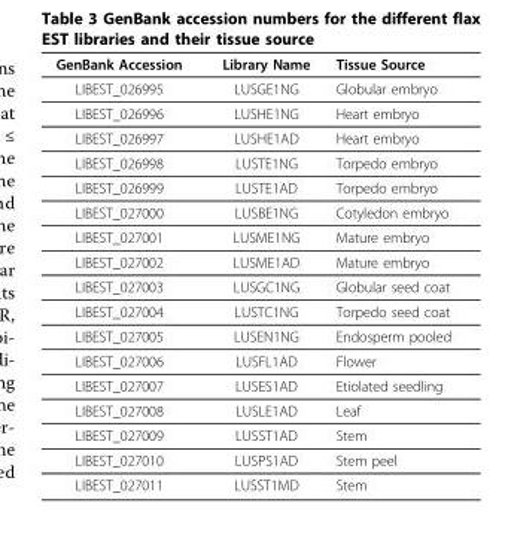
<table><thead><tr><td>GenBank Accession</td><td>Library Name</td><td>Tissue Source</td></tr></thead><tbody><tr><td>LIBEST_026995</td><td>LUSGE1NG</td><td>Globular embryo</td></tr><tr><td>LIBEST_026996</td><td>LUSHE1NG</td><td>Heart embryo</td></tr><tr><td>LIBEST_026997</td><td>LUSHE1AD</td><td>Heart embryo</td></tr><tr><td>LIBEST_026998</td><td>LUSTE1NG</td><td>Torpedo embryo</td></tr><tr><td>LIBEST_026999</td><td>LUSTE1AD</td><td>Torpedo embryo</td></tr><tr><td>LIBEST_027000</td><td>LUSBE1NG</td><td>Cotyledon embryo</td></tr><tr><td>LIBEST_027001</td><td>LUSME1NG</td><td>Mature embryo</td></tr><tr><td>LIBEST_027002</td><td>LUSME1AD</td><td>Mature embryo</td></tr><tr><td>LIBEST_027003</td><td>LUSGC1NG</td><td>Globular seed coat</td></tr><tr><td>LIBEST_027004</td><td>LUSTC1NG</td><td>Torpedo seed coat</td></tr><tr><td>LIBEST_027005</td><td>LUSEN1NG</td><td>Endosperm pooled</td></tr><tr><td>LIBEST_027006</td><td>LUSFL1AD</td><td>Flower</td></tr><tr><td>LIBEST_027007</td><td>LUSES1AD</td><td>Etiolated seedling</td></tr><tr><td>LIBEST_027008</td><td>LUSLE1AD</td><td>Leaf</td></tr><tr><td>LIBEST_027009</td><td>LUSST1AD</td><td>Stem</td></tr><tr><td>LIBEST_027010</td><td>LUSPS1AD</td><td>Stem peel</td></tr><tr><td>LIBEST_027011</td><td>LUSST1MD</td><td>Stem</td></tr></tbody></table>